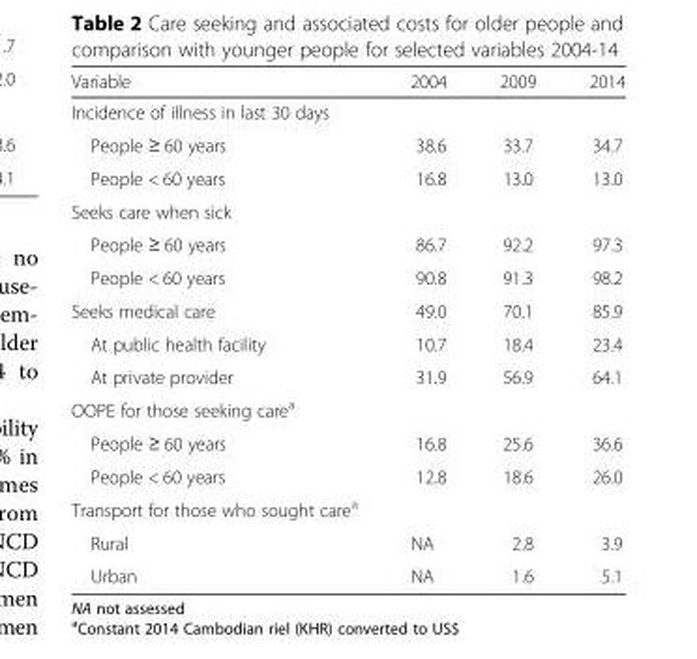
<table><thead><tr><td>Variable</td><td>2004</td><td>2009</td><td>2014</td></tr></thead><tbody><tr><td colspan="4">Incidence of illness in last 30 days</td></tr><tr><td>People ≥ 60 years</td><td>38.6</td><td>33.7</td><td>34.7</td></tr><tr><td>People &lt; 60 years</td><td>16.8</td><td>13.0</td><td>13.0</td></tr><tr><td colspan="4">Seeks care when sick</td></tr><tr><td>People ≥ 60 years</td><td>86.7</td><td>92.2</td><td>97.3</td></tr><tr><td>People &lt; 60 years</td><td>90.8</td><td>91.3</td><td>98.2</td></tr><tr><td>Seeks medical care</td><td>49.0</td><td>70.1</td><td>85.9</td></tr><tr><td>At public health facility</td><td>10.7</td><td>18.4</td><td>23.4</td></tr><tr><td>At private provider</td><td>31.9</td><td>56.9</td><td>64.1</td></tr><tr><td colspan="4">OOPE for those seeking care<sup>a</sup></td></tr><tr><td>People ≥ 60 years</td><td>16.8</td><td>25.6</td><td>36.6</td></tr><tr><td>People &lt; 60 years</td><td>12.8</td><td>18.6</td><td>26.0</td></tr><tr><td colspan="4">Transport for those who sought care<sup>a</sup></td></tr><tr><td>Rural</td><td>NA</td><td>2.8</td><td>3.9</td></tr><tr><td>Urban</td><td>NA</td><td>1.6</td><td>5.1</td></tr></tbody></table>